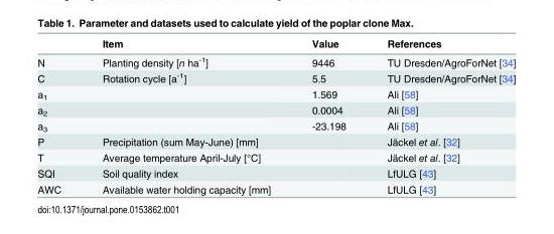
<table><thead><tr><td></td><td>Item</td><td>Value</td><td>References</td></tr></thead><tbody><tr><td>N</td><td>Planting density [n ha<sup>-1</sup>]</td><td>9446</td><td>TU Dresden/AgroForNet [34]</td></tr><tr><td>C</td><td>Rotation cycle [a<sup>-1</sup>]</td><td>5.5</td><td>TU Dresden/AgroForNet [34]</td></tr><tr><td>a<sub>1</sub></td><td></td><td>1.569</td><td>Ali [58]</td></tr><tr><td>a<sub>2</sub></td><td></td><td>0.0004</td><td>Ali [58]</td></tr><tr><td>a<sub>3</sub></td><td></td><td>-23.198</td><td>Ali [58]</td></tr><tr><td>P</td><td>Precipitation (sum May-June) [mm]</td><td></td><td>Jäckel et al. [32]</td></tr><tr><td>T</td><td>Average temperature April-July [°C]</td><td></td><td>Jäckel et al. [32]</td></tr><tr><td>SQI</td><td>Soil quality index</td><td></td><td>LfULG [43]</td></tr><tr><td>AWC</td><td>Available water holding capacity [mm]</td><td></td><td>LfULG [43]</td></tr></tbody></table>